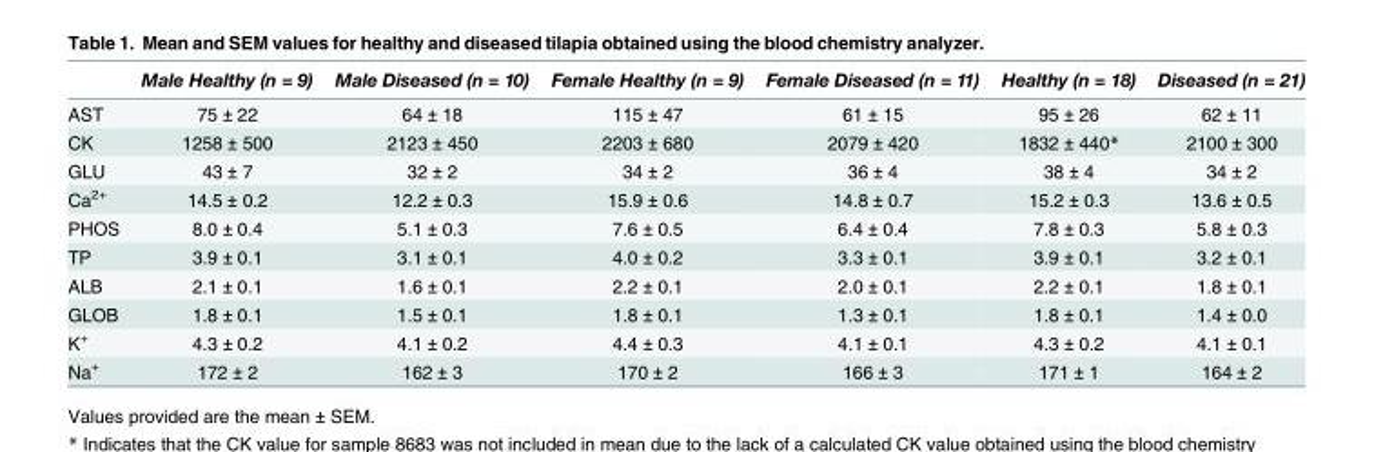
<table><thead><tr><td></td><td>Male Healthy (n = 9)</td><td>Male Diseased (n = 10)</td><td>Female Healthy (n = 9)</td><td>Female Diseased (n = 11)</td><td>Healthy (n = 18)</td><td>Diseased (n = 21)</td></tr></thead><tbody><tr><td>AST</td><td>75 ± 22</td><td>64 ± 18</td><td>115 ± 47</td><td>61 ± 15</td><td>95 ± 26</td><td>62 ± 11</td></tr><tr><td>CK</td><td>1258 ± 500</td><td>2123 ± 450</td><td>2203 ± 680</td><td>2079 ± 420</td><td>1832 ± 440*</td><td>2100 ± 300</td></tr><tr><td>GLU</td><td>43 ± 7</td><td>32 ± 2</td><td>34 ± 2</td><td>36 ± 4</td><td>38 ± 4</td><td>34 ± 2</td></tr><tr><td>Ca<sup>2+</sup></td><td>14.5 ± 0.2</td><td>12.2 ± 0.3</td><td>15.9 ± 0.6</td><td>14.8 ± 0.7</td><td>15.2 ± 0.3</td><td>13.6 ± 0.5</td></tr><tr><td>PHOS</td><td>8.0 ± 0.4</td><td>5.1 ± 0.3</td><td>7.6 ± 0.5</td><td>6.4 ± 0.4</td><td>7.8 ± 0.3</td><td>5.8 ± 0.3</td></tr><tr><td>TP</td><td>3.9 ± 0.1</td><td>3.1 ± 0.1</td><td>4.0 ± 0.2</td><td>3.3 ± 0.1</td><td>3.9 ± 0.1</td><td>3.2 ± 0.1</td></tr><tr><td>ALB</td><td>2.1 ± 0.1</td><td>1.6 ± 0.1</td><td>2.2 ± 0.1</td><td>2.0 ± 0.1</td><td>2.2 ± 0.1</td><td>1.8 ± 0.1</td></tr><tr><td>GLOB</td><td>1.8 ± 0.1</td><td>1.5 ± 0.1</td><td>1.8 ± 0.1</td><td>1.3 ± 0.1</td><td>1.8 ± 0.1</td><td>1.4 ± 0.0</td></tr><tr><td>K<sup>+</sup></td><td>4.3 ± 0.2</td><td>4.1 ± 0.2</td><td>4.4 ± 0.3</td><td>4.1 ± 0.1</td><td>4.3 ± 0.2</td><td>4.1 ± 0.1</td></tr><tr><td>Na<sup>+</sup></td><td>172 ± 2</td><td>162 ± 3</td><td>170 ± 2</td><td>166 ± 3</td><td>171 ± 1</td><td>164 ± 2</td></tr></tbody></table>